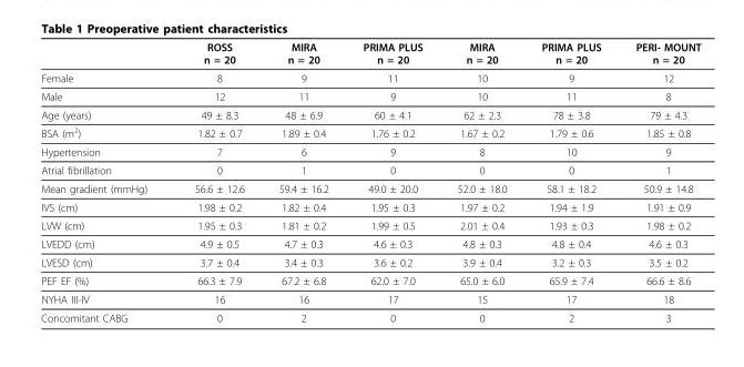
<table><thead><tr><td></td><td>ROSS n = 20</td><td>MIRA n = 20</td><td>PRIMA PLUS n = 20</td><td>MIRA n = 20</td><td>PRIMA PLUS n = 20</td><td>PERI- MOUNT n = 20</td></tr></thead><tbody><tr><td>Female</td><td>8</td><td>9</td><td>11</td><td>10</td><td>9</td><td>12</td></tr><tr><td>Male</td><td>12</td><td>11</td><td>9</td><td>10</td><td>11</td><td>8</td></tr><tr><td>Age (years)</td><td>49 ± 8.3</td><td>48 ± 6.9</td><td>60 ± 4.1</td><td>62 ± 2.3</td><td>78 ± 3.8</td><td>79 ± 4.3</td></tr><tr><td>BSA (m<sup>2</sup>)</td><td>1.82 ± 0.7</td><td>1.89 ± 0.4</td><td>1.76 ± 0.2</td><td>1.67 ± 0.2</td><td>1.79 ± 0.6</td><td>1.85 ± 0.8</td></tr><tr><td>Hypertension</td><td>7</td><td>6</td><td>9</td><td>8</td><td>10</td><td>9</td></tr><tr><td>Atrial fibrillation</td><td>0</td><td>1</td><td>0</td><td>0</td><td>0</td><td>1</td></tr><tr><td>Mean gradient (mmHg)</td><td>56.6 ± 12.6</td><td>59.4 ± 16.2</td><td>49.0 ± 20.0</td><td>52.0 ± 18.0</td><td>58.1 ± 18.2</td><td>50.9 ± 14.8</td></tr><tr><td>IVS (cm)</td><td>1.98 ± 0.2</td><td>1.82 ± 0.4</td><td>1.95 ± 0.3</td><td>1.97 ± 0.2</td><td>1.94 ± 1.9</td><td>1.91 ± 0.9</td></tr><tr><td>LVW (cm)</td><td>1.95 ± 0.3</td><td>1.81 ± 0.2</td><td>1.99 ± 0.5</td><td>2.01 ± 0.4</td><td>1.93 ± 0.3</td><td>1.98 ± 0.2</td></tr><tr><td>LVEDD (cm)</td><td>4.9 ± 0.5</td><td>4.7 ± 0.3</td><td>4.6 ± 0.3</td><td>4.8 ± 0.3</td><td>4.8 ± 0.4</td><td>4.6 ± 0.3</td></tr><tr><td>LVESD (cm)</td><td>3.7 ± 0.4</td><td>3.4 ± 0.3</td><td>3.6 ± 0.2</td><td>3.9 ± 0.4</td><td>3.2 ± 0.3</td><td>3.5 ± 0.2</td></tr><tr><td>PEF EF (%)</td><td>66.3 ± 7.9</td><td>67.2 ± 6.8</td><td>62.0 ± 7.0</td><td>65.0 ± 6.0</td><td>65.9 ± 7.4</td><td>66.6 ± 8.6</td></tr><tr><td>NYHA III-IV</td><td>16</td><td>16</td><td>17</td><td>15</td><td>17</td><td>18</td></tr><tr><td>Concomitant CABG</td><td>0</td><td>2</td><td>0</td><td>0</td><td>2</td><td>3</td></tr></tbody></table>